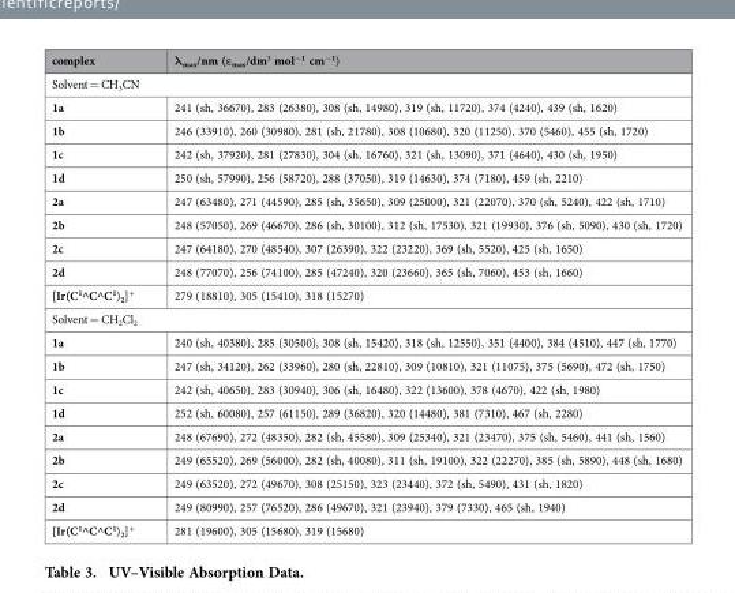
<table><thead><tr><td>complex</td><td>λ<sub>max</sub>/nm (ε<sub>max</sub>/dm<sup>3</sup> mol<sup>−1</sup> cm<sup>−1</sup>)</td></tr></thead><tbody><tr><td colspan="2">Solvent = CH<sub>3</sub>CN</td></tr><tr><td>1a</td><td>241 (sh, 36670), 283 (26380), 308 (sh, 14980), 319 (sh, 11720), 374 (4240), 439 (sh, 1620)</td></tr><tr><td>1b</td><td>246 (33910), 260 (30980), 281 (sh, 21780), 308 (10680), 320 (11250), 370 (5460), 455 (sh, 1720)</td></tr><tr><td>1c</td><td>242 (sh, 37920), 281 (27830), 304 (sh, 16760), 321 (sh, 13090), 371 (4640), 430 (sh, 1950)</td></tr><tr><td>1d</td><td>250 (sh, 57990), 256 (58720), 288 (37050), 319 (14630), 374 (7180), 459 (sh, 2210)</td></tr><tr><td>2a</td><td>247 (63480), 271 (44590), 285 (sh, 35650), 309 (25000), 321 (22070), 370 (sh, 5240), 422 (sh, 1710)</td></tr><tr><td>2b</td><td>248 (57050), 269 (46670), 286 (sh, 30100), 312 (sh, 17530), 321 (19930), 376 (sh, 5090), 430 (sh, 1720)</td></tr><tr><td>2c</td><td>247 (64180), 270 (48540), 307 (26390), 322 (23220), 369 (sh, 5520), 425 (sh, 1650)</td></tr><tr><td>2d</td><td>248 (77070), 256 (74100), 285 (47240), 320 (23660), 365 (sh, 7060), 453 (sh, 1660)</td></tr><tr><td>[Ir(C<sup>1</sup>^C^C<sup>1</sup>)<sub>2</sub>]<sup>+</sup></td><td>279 (18810), 305 (15410), 318 (15270)</td></tr><tr><td colspan="2">Solvent = CH<sub>2</sub>Cl<sub>2</sub></td></tr><tr><td>1a</td><td>240 (sh, 40380), 285 (30500), 308 (sh, 15420), 318 (sh, 12550), 351 (4400), 384 (4510), 447 (sh, 1770)</td></tr><tr><td>1b</td><td>247 (sh, 34120), 262 (33960), 280 (sh, 22810), 309 (10810), 321 (11075), 375 (5690), 472 (sh, 1750)</td></tr><tr><td>1c</td><td>242 (sh, 40650), 283 (30940), 306 (sh, 16480), 322 (13600), 378 (4670), 422 (sh, 1980)</td></tr><tr><td>1d</td><td>252 (sh, 60080), 257 (61150), 289 (36820), 320 (14480), 381 (7310), 467 (sh, 2280)</td></tr><tr><td>2a</td><td>248 (67690), 272 (48350), 282 (sh, 45580), 309 (25340), 321 (23470), 375 (sh, 5460), 441 (sh, 1560)</td></tr><tr><td>2b</td><td>249 (65520), 269 (56000), 282 (sh, 40080), 311 (sh, 19100), 322 (22270), 385 (sh, 5890), 448 (sh, 1680)</td></tr><tr><td>2c</td><td>249 (63520), 272 (49670), 308 (25150), 323 (23440), 372 (sh, 5490), 431 (sh, 1820)</td></tr><tr><td>2d</td><td>249 (80990), 257 (76520), 286 (49670), 321 (23940), 379 (7330), 465 (sh, 1940)</td></tr><tr><td>[Ir(C<sup>1</sup>^C^C<sup>1</sup>)<sub>2</sub>]<sup>+</sup></td><td>281 (19600), 305 (15680), 319 (15680)</td></tr></tbody></table>